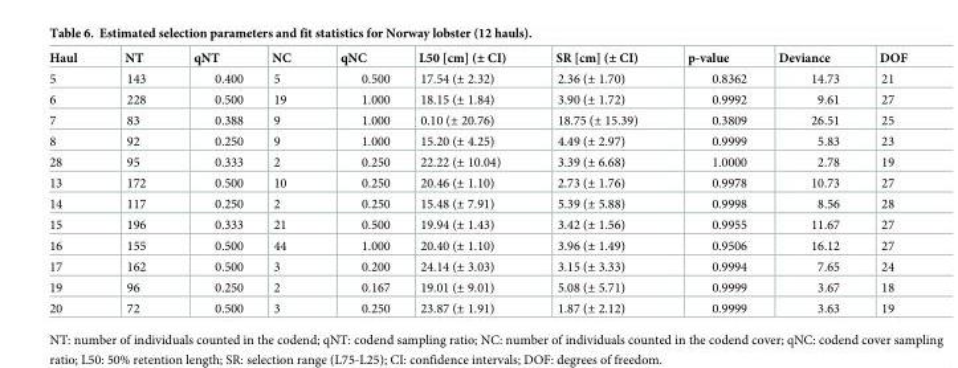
<table><thead><tr><td>Haul</td><td>NT</td><td>qNT</td><td>NC</td><td>qNC</td><td>L50 [cm] (± CI)</td><td>SR [cm] (± CI)</td><td>p-value</td><td>Deviance</td><td>DOF</td></tr></thead><tbody><tr><td>5</td><td>143</td><td>0.400</td><td>5</td><td>0.500</td><td>17.54 (± 2.32)</td><td>2.36 (± 1.70)</td><td>0.8362</td><td>14.73</td><td>21</td></tr><tr><td>6</td><td>228</td><td>0.500</td><td>19</td><td>1.000</td><td>18.15 (± 1.84)</td><td>3.90 (± 1.72)</td><td>0.9992</td><td>9.61</td><td>27</td></tr><tr><td>7</td><td>83</td><td>0.388</td><td>9</td><td>1.000</td><td>0.10 (± 20.76)</td><td>18.75 (± 15.39)</td><td>0.3809</td><td>26.51</td><td>25</td></tr><tr><td>8</td><td>92</td><td>0.250</td><td>9</td><td>1.000</td><td>15.20 (± 4.25)</td><td>4.49 (± 2.97)</td><td>0.9999</td><td>5.83</td><td>23</td></tr><tr><td>28</td><td>95</td><td>0.333</td><td>2</td><td>0.250</td><td>22.22 (± 10.04)</td><td>3.39 (± 6.68)</td><td>1.0000</td><td>2.78</td><td>19</td></tr><tr><td>13</td><td>172</td><td>0.500</td><td>10</td><td>0.250</td><td>20.46 (± 1.10)</td><td>2.73 (± 1.76)</td><td>0.9978</td><td>10.73</td><td>27</td></tr><tr><td>14</td><td>117</td><td>0.250</td><td>2</td><td>0.250</td><td>15.48 (± 7.91)</td><td>5.39 (± 5.88)</td><td>0.9998</td><td>8.56</td><td>28</td></tr><tr><td>15</td><td>196</td><td>0.333</td><td>21</td><td>0.500</td><td>19.94 (± 1.43)</td><td>3.42 (± 1.56)</td><td>0.9955</td><td>11.67</td><td>27</td></tr><tr><td>16</td><td>155</td><td>0.500</td><td>44</td><td>1.000</td><td>20.40 (± 1.10)</td><td>3.96 (± 1.49)</td><td>0.9506</td><td>16.12</td><td>27</td></tr><tr><td>17</td><td>162</td><td>0.500</td><td>3</td><td>0.200</td><td>24.14 (± 3.03)</td><td>3.15 (± 3.33)</td><td>0.9994</td><td>7.65</td><td>24</td></tr><tr><td>19</td><td>96</td><td>0.250</td><td>2</td><td>0.167</td><td>19.01 (± 9.01)</td><td>5.08 (± 5.71)</td><td>0.9999</td><td>3.67</td><td>18</td></tr><tr><td>20</td><td>72</td><td>0.500</td><td>3</td><td>0.250</td><td>23.87 (± 1.91)</td><td>1.87 (± 2.12)</td><td>0.9999</td><td>3.63</td><td>19</td></tr></tbody></table>